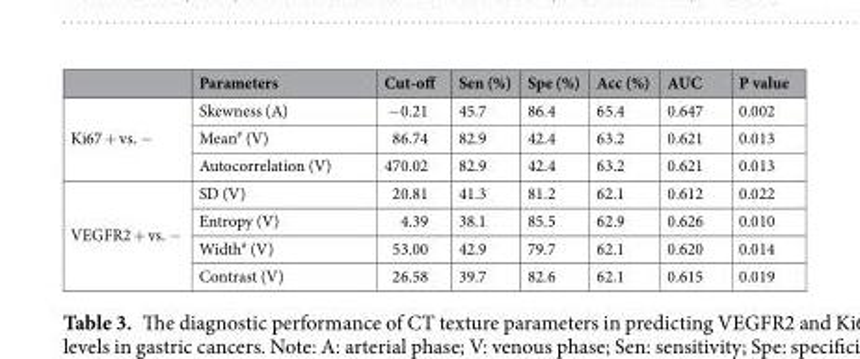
<table><thead><tr><td></td><td>Parameters</td><td>Cut-off</td><td>Sen (%)</td><td>Spe (%)</td><td>Acc (%)</td><td>AUC</td><td>P value</td></tr></thead><tbody><tr><td rowspan="3">Ki67 + vs. −</td><td>Skewness (A)</td><td>−0.21</td><td>45.7</td><td>86.4</td><td>65.4</td><td>0.647</td><td>0.002</td></tr><tr><td>Mean<sup>#</sup> (V)</td><td>86.74</td><td>82.9</td><td>42.4</td><td>63.2</td><td>0.621</td><td>0.013</td></tr><tr><td>Autocorrelation (V)</td><td>470.02</td><td>82.9</td><td>42.4</td><td>63.2</td><td>0.621</td><td>0.013</td></tr><tr><td rowspan="4">VEGFR2 + vs. −</td><td>SD (V)</td><td>20.81</td><td>41.3</td><td>81.2</td><td>62.1</td><td>0.612</td><td>0.022</td></tr><tr><td>Entropy (V)</td><td>4.39</td><td>38.1</td><td>85.5</td><td>62.9</td><td>0.626</td><td>0.010</td></tr><tr><td>Width<sup>#</sup> (V)</td><td>53.00</td><td>42.9</td><td>79.7</td><td>62.1</td><td>0.620</td><td>0.014</td></tr><tr><td>Contrast (V)</td><td>26.58</td><td>39.7</td><td>82.6</td><td>62.1</td><td>0.615</td><td>0.019</td></tr></tbody></table>